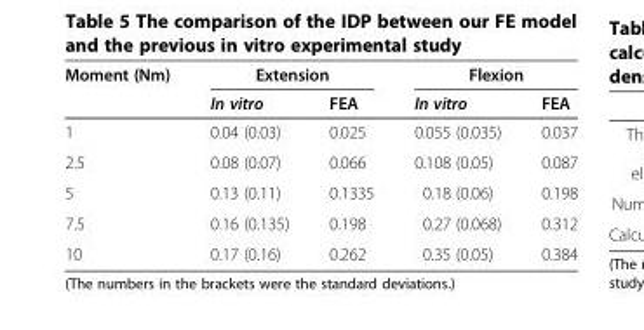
<table><thead><tr><td rowspan="2">Moment (Nm)</td><td colspan="2">Extension</td><td colspan="2">Flexion</td></tr><tr><td>In vitro</td><td>FEA</td><td>In vitro</td><td>FEA</td></tr></thead><tbody><tr><td>1</td><td>0.04 (0.03)</td><td>0.025</td><td>0.055 (0.035)</td><td>0.037</td></tr><tr><td>2.5</td><td>0.08 (0.07)</td><td>0.066</td><td>0.108 (0.05)</td><td>0.087</td></tr><tr><td>5</td><td>0.13 (0.11)</td><td>0.1335</td><td>0.18 (0.06)</td><td>0.198</td></tr><tr><td>7.5</td><td>0.16 (0.135)</td><td>0.198</td><td>0.27 (0.068)</td><td>0.312</td></tr><tr><td>10</td><td>0.17 (0.16)</td><td>0.262</td><td>0.35 (0.05)</td><td>0.384</td></tr></tbody></table>